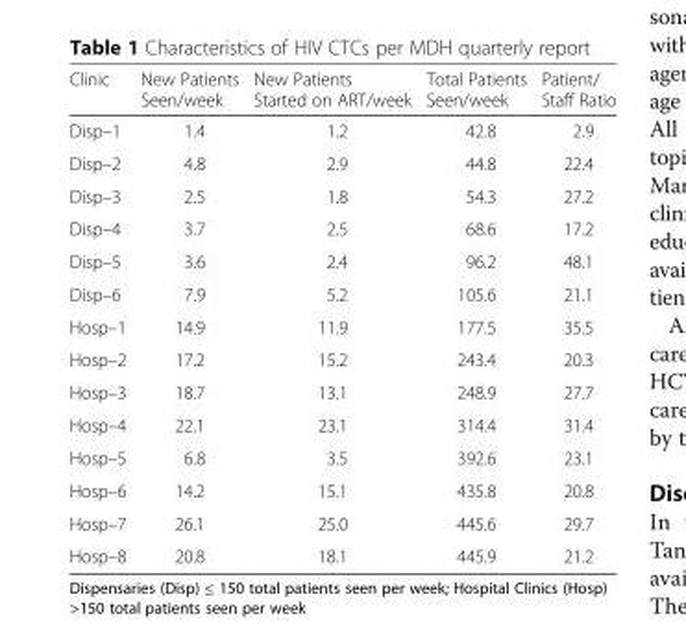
<table><thead><tr><td>Clinic</td><td>New Patients Seen/week</td><td>New Patients Started on ART/week</td><td>Total Patients Seen/week</td><td>Patient/ Staff Ratio</td></tr></thead><tbody><tr><td>Disp–1</td><td>1.4</td><td>1.2</td><td>42.8</td><td>2.9</td></tr><tr><td>Disp–2</td><td>4.8</td><td>2.9</td><td>44.8</td><td>22.4</td></tr><tr><td>Disp–3</td><td>2.5</td><td>1.8</td><td>54.3</td><td>27.2</td></tr><tr><td>Disp–4</td><td>3.7</td><td>2.5</td><td>68.6</td><td>17.2</td></tr><tr><td>Disp–5</td><td>3.6</td><td>2.4</td><td>96.2</td><td>48.1</td></tr><tr><td>Disp–6</td><td>7.9</td><td>5.2</td><td>105.6</td><td>21.1</td></tr><tr><td>Hosp–1</td><td>14.9</td><td>11.9</td><td>177.5</td><td>35.5</td></tr><tr><td>Hosp–2</td><td>17.2</td><td>15.2</td><td>243.4</td><td>20.3</td></tr><tr><td>Hosp–3</td><td>18.7</td><td>13.1</td><td>248.9</td><td>27.7</td></tr><tr><td>Hosp–4</td><td>22.1</td><td>23.1</td><td>314.4</td><td>31.4</td></tr><tr><td>Hosp–5</td><td>6.8</td><td>3.5</td><td>392.6</td><td>23.1</td></tr><tr><td>Hosp–6</td><td>14.2</td><td>15.1</td><td>435.8</td><td>20.8</td></tr><tr><td>Hosp–7</td><td>26.1</td><td>25.0</td><td>445.6</td><td>29.7</td></tr><tr><td>Hosp–8</td><td>20.8</td><td>18.1</td><td>445.9</td><td>21.2</td></tr></tbody></table>